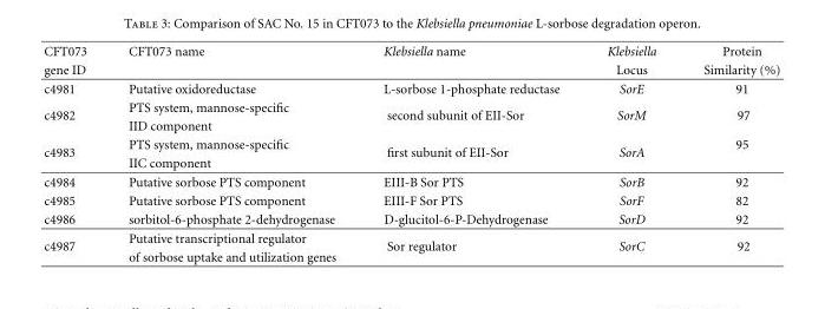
<table><thead><tr><td rowspan="2">CFT073 gene ID</td><td rowspan="2">CFT073 name</td><td rowspan="2">Klebsiella name</td><td rowspan="2">Klebsiella Locus</td><td rowspan="2">Protein Similarity (%)</td></tr><tr></tr></thead><tbody><tr><td>c4981</td><td>Putative oxidoreductase</td><td>L-sorbose 1-phosphate reductase</td><td>SorE</td><td>91</td></tr><tr><td rowspan="2">c4982</td><td>PTS system, mannose-specific</td><td rowspan="2">second subunit of EII-Sor</td><td rowspan="2">SorM</td><td rowspan="2">97</td></tr><tr><td>IID component</td></tr><tr><td rowspan="2">c4983</td><td>PTS system, mannose-specific</td><td rowspan="2">first subunit of EII-Sor</td><td rowspan="2">SorA</td><td>95</td></tr><tr><td>IIC component</td><td></td></tr><tr><td>c4984</td><td>Putative sorbose PTS component</td><td>EIII-B Sor PTS</td><td>SorB</td><td>92</td></tr><tr><td>c4985</td><td>Putative sorbose PTS component</td><td>EIII-F Sor PTS</td><td>SorF</td><td>82</td></tr><tr><td>c4986</td><td>sorbitol-6-phosphate 2-dehydrogenase</td><td>D-glucitol-6-P-Dehydrogenase</td><td>SorD</td><td>92</td></tr><tr><td rowspan="2">c4987</td><td>Putative transcriptional regulator</td><td rowspan="2">Sor regulator</td><td rowspan="2">SorC</td><td rowspan="2">92</td></tr><tr><td>of sorbose uptake and utilization genes</td></tr></tbody></table>